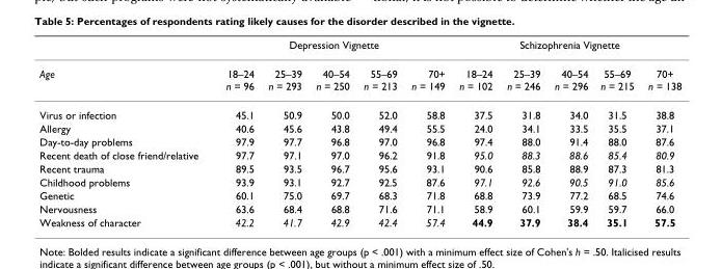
<table><thead><tr><td rowspan="2">Age</td><td colspan="5">Depression Vignette</td><td colspan="5">Schizophrenia Vignette</td></tr><tr><td>18–24 n = 96</td><td>25–39 n = 293</td><td>40–54 n = 250</td><td>55–69 n = 213</td><td>70+ n = 149</td><td>18–24 n = 102</td><td>25–39 n = 246</td><td>40–54 n = 296</td><td>55–69 n = 215</td><td>70+ n = 138</td></tr></thead><tbody><tr><td>Virus or infection</td><td>45.1</td><td>50.9</td><td>50.0</td><td>52.0</td><td>58.8</td><td>37.5</td><td>31.8</td><td>34.0</td><td>31.5</td><td>38.8</td></tr><tr><td>Allergy</td><td>40.6</td><td>45.6</td><td>43.8</td><td>49.4</td><td>55.5</td><td>24.0</td><td>34.1</td><td>33.5</td><td>35.5</td><td>37.1</td></tr><tr><td>Day-to-day problems</td><td>97.9</td><td>97.7</td><td>96.8</td><td>97.0</td><td>96.8</td><td>97.4</td><td>88.0</td><td>91.4</td><td>88.0</td><td>87.6</td></tr><tr><td>Recent death of close friend/relative</td><td>97.7</td><td>97.1</td><td>97.0</td><td>96.2</td><td>91.8</td><td>95.0</td><td>88.3</td><td>88.6</td><td>85.4</td><td>80.9</td></tr><tr><td>Recent trauma</td><td>89.5</td><td>93.5</td><td>96.7</td><td>95.6</td><td>93.1</td><td>90.6</td><td>85.8</td><td>88.9</td><td>87.3</td><td>81.3</td></tr><tr><td>Childhood problems</td><td>93.9</td><td>93.1</td><td>92.7</td><td>92.5</td><td>87.6</td><td>97.1</td><td>92.6</td><td>90.5</td><td>91.0</td><td>85.6</td></tr><tr><td>Genetic</td><td>60.1</td><td>75.0</td><td>69.7</td><td>68.3</td><td>71.8</td><td>68.8</td><td>73.9</td><td>77.2</td><td>68.5</td><td>74.6</td></tr><tr><td>Nervousness</td><td>63.6</td><td>68.4</td><td>68.8</td><td>71.6</td><td>71.1</td><td>58.9</td><td>60.1</td><td>59.9</td><td>59.7</td><td>66.0</td></tr><tr><td>Weakness of character</td><td>42.2</td><td>41.7</td><td>42.9</td><td>42.4</td><td>57.4</td><td>44.9</td><td>37.9</td><td>38.4</td><td>35.1</td><td>57.5</td></tr></tbody></table>